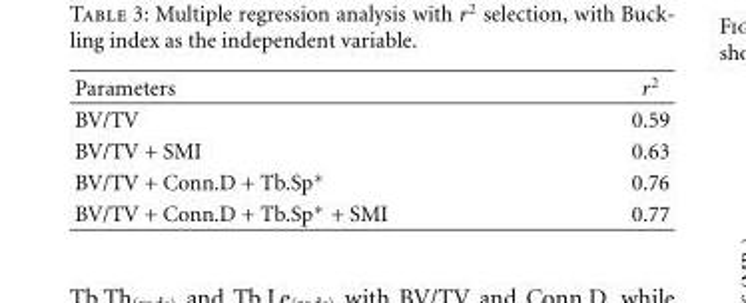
<table><thead><tr><td>Parameters</td><td>r<sup>2</sup></td></tr></thead><tbody><tr><td>BV/TV</td><td>0.59</td></tr><tr><td>BV/TV + SMI</td><td>0.63</td></tr><tr><td>BV/TV + Conn.D + Tb.Sp∗</td><td>0.76</td></tr><tr><td>BV/TV + Conn.D + Tb.Sp∗ + SMI</td><td>0.77</td></tr></tbody></table>